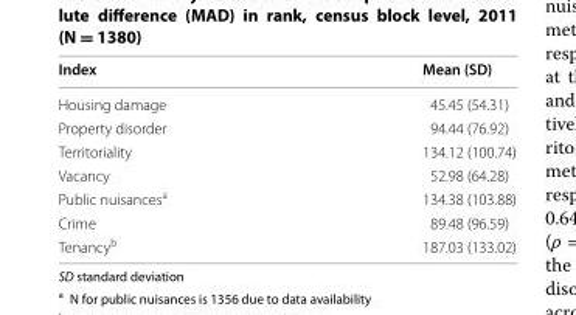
<table><thead><tr><td>Index</td><td>Mean (SD)</td></tr></thead><tbody><tr><td>Housing damage</td><td>45.45 (54.31)</td></tr><tr><td>Property disorder</td><td>94.44 (76.92)</td></tr><tr><td>Territoriality</td><td>134.12 (100.74)</td></tr><tr><td>Vacancy</td><td>52.98 (64.28)</td></tr><tr><td>Public nuisances<sup>a</sup></td><td>134.38 (103.88)</td></tr><tr><td>Crime</td><td>89.48 (96.59)</td></tr><tr><td>Tenancy<sup>b</sup></td><td>187.03 (133.02)</td></tr></tbody></table>